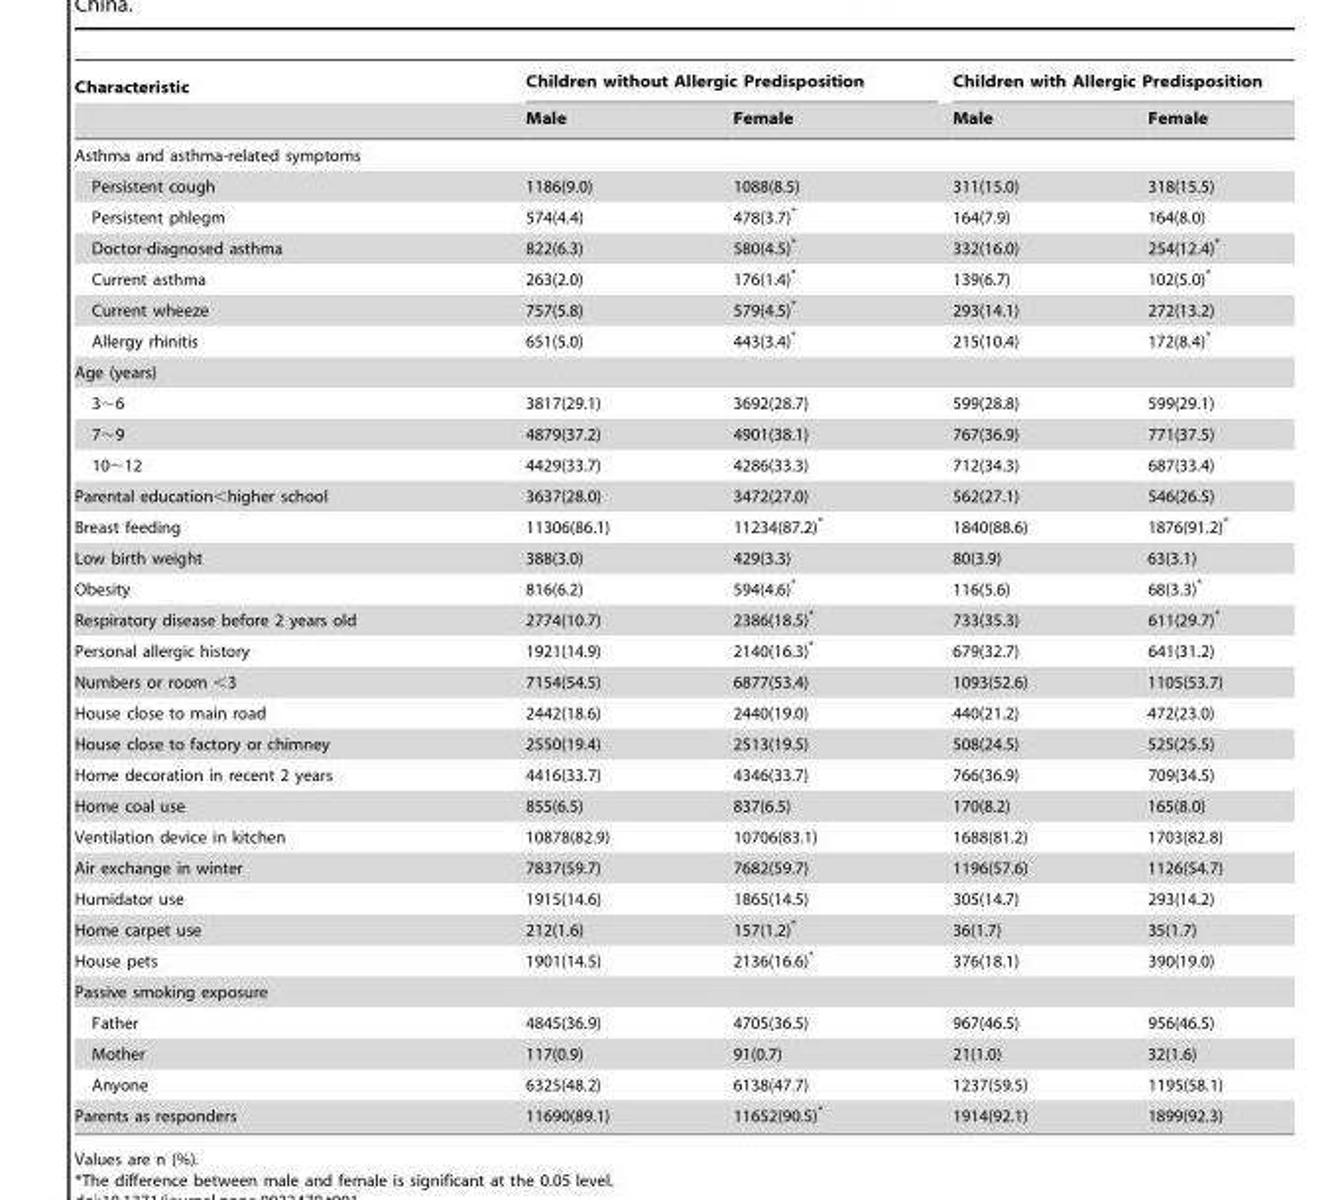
<table><thead><tr><td rowspan="2">Characteristic</td><td colspan="2">Children without Allergic Predisposition</td><td colspan="2">Children with Allergic Predisposition</td></tr><tr><td>Male</td><td>Female</td><td>Male</td><td>Female</td></tr></thead><tbody><tr><td colspan="5">Asthma and asthma-related symptoms</td></tr><tr><td>Persistent cough</td><td>1186(9.0)</td><td>1088(8.5)</td><td>311(15.0)</td><td>318(15.5)</td></tr><tr><td>Persistent phlegm</td><td>574(4.4)</td><td>478(3.7)*</td><td>164(7.9)</td><td>164(8.0)</td></tr><tr><td>Doctor-diagnosed asthma</td><td>822(6.3)</td><td>580(4.5)*</td><td>332(16.0)</td><td>254(12.4)*</td></tr><tr><td>Current asthma</td><td>263(2.0)</td><td>176(1.4)*</td><td>139(6.7)</td><td>102(5.0)*</td></tr><tr><td>Current wheeze</td><td>757(5.8)</td><td>579(4.5)*</td><td>293(14.1)</td><td>272(13.2)</td></tr><tr><td>Allergy rhinitis</td><td>651(5.0)</td><td>443(3.4)*</td><td>215(10.4)</td><td>172(8.4)*</td></tr><tr><td colspan="5">Age (years)</td></tr><tr><td>3∼6</td><td>3817(29.1)</td><td>3692(28.7)</td><td>599(28.8)</td><td>599(29.1)</td></tr><tr><td>7∼9</td><td>4879(37.2)</td><td>4901(38.1)</td><td>767(36.9)</td><td>771(37.5)</td></tr><tr><td>10∼12</td><td>4429(33.7)</td><td>4286(33.3)</td><td>712(34.3)</td><td>687(33.4)</td></tr><tr><td>Parental education&lt;higher school</td><td>3637(28.0)</td><td>3472(27.0)</td><td>562(27.1)</td><td>546(26.5)</td></tr><tr><td>Breast feeding</td><td>11306(86.1)</td><td>11234(87.2)*</td><td>1840(88.6)</td><td>1876(91.2)*</td></tr><tr><td>Low birth weight</td><td>388(3.0)</td><td>429(3.3)</td><td>80(3.9)</td><td>63(3.1)</td></tr><tr><td>Obesity</td><td>816(6.2)</td><td>594(4.6)*</td><td>116(5.6)</td><td>68(3.3)*</td></tr><tr><td>Respiratory disease before 2 years old</td><td>2774(10.7)</td><td>2386(18.5)*</td><td>733(35.3)</td><td>611(29.7)*</td></tr><tr><td>Personal allergic history</td><td>1921(14.9)</td><td>2140(16.3)*</td><td>679(32.7)</td><td>641(31.2)</td></tr><tr><td>Numbers or room &lt;3</td><td>7154(54.5)</td><td>6877(53.4)</td><td>1093(52.6)</td><td>1105(53.7)</td></tr><tr><td>House close to main road</td><td>2442(18.6)</td><td>2440(19.0)</td><td>440(21.2)</td><td>472(23.0)</td></tr><tr><td>House close to factory or chimney</td><td>2550(19.4)</td><td>2513(19.5)</td><td>508(24.5)</td><td>525(25.5)</td></tr><tr><td>Home decoration in recent 2 years</td><td>4416(33.7)</td><td>4346(33.7)</td><td>766(36.9)</td><td>709(34.5)</td></tr><tr><td>Home coal use</td><td>855(6.5)</td><td>837(6.5)</td><td>170(8.2)</td><td>165(8.0)</td></tr><tr><td>Ventilation device in kitchen</td><td>10878(82.9)</td><td>10706(83.1)</td><td>1688(81.2)</td><td>1703(82.8)</td></tr><tr><td>Air exchange in winter</td><td>7837(59.7)</td><td>7682(59.7)</td><td>1196(57.6)</td><td>1126(54.7)</td></tr><tr><td>Humidator use</td><td>1915(14.6)</td><td>1865(14.5)</td><td>305(14.7)</td><td>293(14.2)</td></tr><tr><td>Home carpet use</td><td>212(1.6)</td><td>157(1.2)*</td><td>36(1.7)</td><td>35(1.7)</td></tr><tr><td>House pets</td><td>1901(14.5)</td><td>2136(16.6)*</td><td>376(18.1)</td><td>390(19.0)</td></tr><tr><td colspan="5">Passive smoking exposure</td></tr><tr><td>Father</td><td>4845(36.9)</td><td>4705(36.5)</td><td>967(46.5)</td><td>956(46.5)</td></tr><tr><td>Mother</td><td>117(0.9)</td><td>91(0.7)</td><td>21(1.0)</td><td>32(1.6)</td></tr><tr><td>Anyone</td><td>6325(48.2)</td><td>6138(47.7)</td><td>1237(59.5)</td><td>1195(58.1)</td></tr><tr><td>Parents as responders</td><td>11690(89.1)</td><td>11652(90.5)*</td><td>1914(92.1)</td><td>1899(92.3)</td></tr></tbody></table>